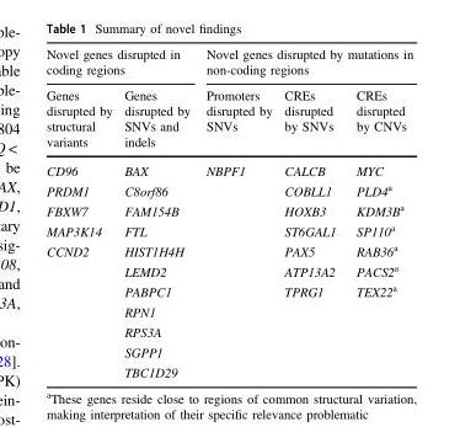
<table><thead><tr><td colspan="2">Novel genes disrupted in coding regions</td><td colspan="3">Novel genes disrupted by mutations in non-coding regions</td></tr><tr><td>Genes disrupted by structural variants</td><td>Genes disrupted by SNVs and indels</td><td>Promoters disrupted by SNVs</td><td>CREs disrupted by SNVs</td><td>CREs disrupted by CNVs</td></tr></thead><tbody><tr><td>CD96</td><td>BAX</td><td>NBPF1</td><td>CALCB</td><td>MYC</td></tr><tr><td>PRDM1</td><td>C8orf86</td><td></td><td>COBLL1</td><td>PLD4<sup>a</sup></td></tr><tr><td>FBXW7</td><td>FAM154B</td><td></td><td>HOXB3</td><td>KDM3B<sup>a</sup></td></tr><tr><td>MAP3K14</td><td>FTL</td><td></td><td>ST6GAL1</td><td>SP110<sup>a</sup></td></tr><tr><td rowspan="7">CCND2</td><td>HIST1H4H</td><td></td><td>PAX5</td><td>RAB36<sup>a</sup></td></tr><tr><td>LEMD2</td><td></td><td>ATP13A2</td><td>PACS2<sup>a</sup></td></tr><tr><td>PABPC1</td><td></td><td>TPRG1</td><td>TEX22<sup>a</sup></td></tr><tr><td>RPN1</td><td></td><td></td><td></td></tr><tr><td>RPS3A</td><td></td><td></td><td></td></tr><tr><td>SGPP1</td><td></td><td></td><td></td></tr><tr><td>TBC1D29</td><td></td><td></td><td></td></tr></tbody></table>